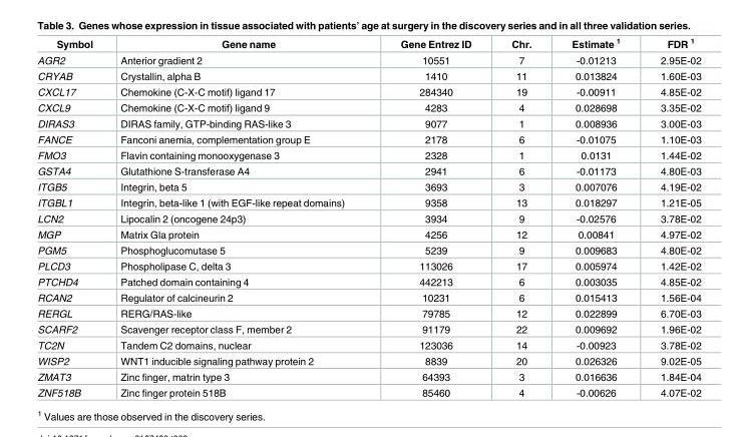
<table><thead><tr><td>Symbol</td><td>Gene name</td><td>Gene Entrez ID</td><td>Chr.</td><td>Estimate <sup>1</sup></td><td>FDR <sup>1</sup></td></tr></thead><tbody><tr><td>AGR2</td><td>Anterior gradient 2</td><td>10551</td><td>7</td><td>-0.01213</td><td>2.95E-02</td></tr><tr><td>CRYAB</td><td>Crystallin, alpha B</td><td>1410</td><td>11</td><td>0.013824</td><td>1.60E-03</td></tr><tr><td>CXCL17</td><td>Chemokine (C-X-C motif) ligand 17</td><td>284340</td><td>19</td><td>-0.00911</td><td>4.85E-02</td></tr><tr><td>CXCL9</td><td>Chemokine (C-X-C motif) ligand 9</td><td>4283</td><td>4</td><td>0.028698</td><td>3.35E-02</td></tr><tr><td>DIRAS3</td><td>DIRAS family, GTP-binding RAS-like 3</td><td>9077</td><td>1</td><td>0.008936</td><td>3.00E-03</td></tr><tr><td>FANCE</td><td>Fanconi anemia, complementation group E</td><td>2178</td><td>6</td><td>-0.01075</td><td>1.10E-03</td></tr><tr><td>FMO3</td><td>Flavin containing monooxygenase 3</td><td>2328</td><td>1</td><td>0.0131</td><td>1.44E-02</td></tr><tr><td>GSTA4</td><td>Glutathione S-transferase A4</td><td>2941</td><td>6</td><td>-0.01173</td><td>4.80E-03</td></tr><tr><td>ITGB5</td><td>Integrin, beta 5</td><td>3693</td><td>3</td><td>0.007076</td><td>4.19E-02</td></tr><tr><td>ITGBL1</td><td>Integrin, beta-like 1 (with EGF-like repeat domains)</td><td>9358</td><td>13</td><td>0.018297</td><td>1.21E-05</td></tr><tr><td>LCN2</td><td>Lipocalin 2 (oncogene 24p3)</td><td>3934</td><td>9</td><td>-0.02576</td><td>3.78E-02</td></tr><tr><td>MGP</td><td>Matrix Gla protein</td><td>4256</td><td>12</td><td>0.00841</td><td>4.97E-02</td></tr><tr><td>PGM5</td><td>Phosphoglucomutase 5</td><td>5239</td><td>9</td><td>0.009683</td><td>4.80E-02</td></tr><tr><td>PLCD3</td><td>Phospholipase C, delta 3</td><td>113026</td><td>17</td><td>0.005974</td><td>1.42E-02</td></tr><tr><td>PTCHD4</td><td>Patched domain containing 4</td><td>442213</td><td>6</td><td>0.003035</td><td>4.85E-02</td></tr><tr><td>RCAN2</td><td>Regulator of calcineurin 2</td><td>10231</td><td>6</td><td>0.015413</td><td>1.56E-04</td></tr><tr><td>RERGL</td><td>RERG/RAS-like</td><td>79785</td><td>12</td><td>0.022899</td><td>6.70E-03</td></tr><tr><td>SCARF2</td><td>Scavenger receptor class F, member 2</td><td>91179</td><td>22</td><td>0.009692</td><td>1.96E-02</td></tr><tr><td>TC2N</td><td>Tandem C2 domains, nuclear</td><td>123036</td><td>14</td><td>-0.00923</td><td>3.78E-02</td></tr><tr><td>WISP2</td><td>WNT1 inducible signaling pathway protein 2</td><td>8839</td><td>20</td><td>0.026326</td><td>9.02E-05</td></tr><tr><td>ZMAT3</td><td>Zinc finger, matrin type 3</td><td>64393</td><td>3</td><td>0.016636</td><td>1.84E-04</td></tr><tr><td>ZNF518B</td><td>Zinc finger protein 518B</td><td>85460</td><td>4</td><td>-0.00626</td><td>4.07E-02</td></tr></tbody></table>